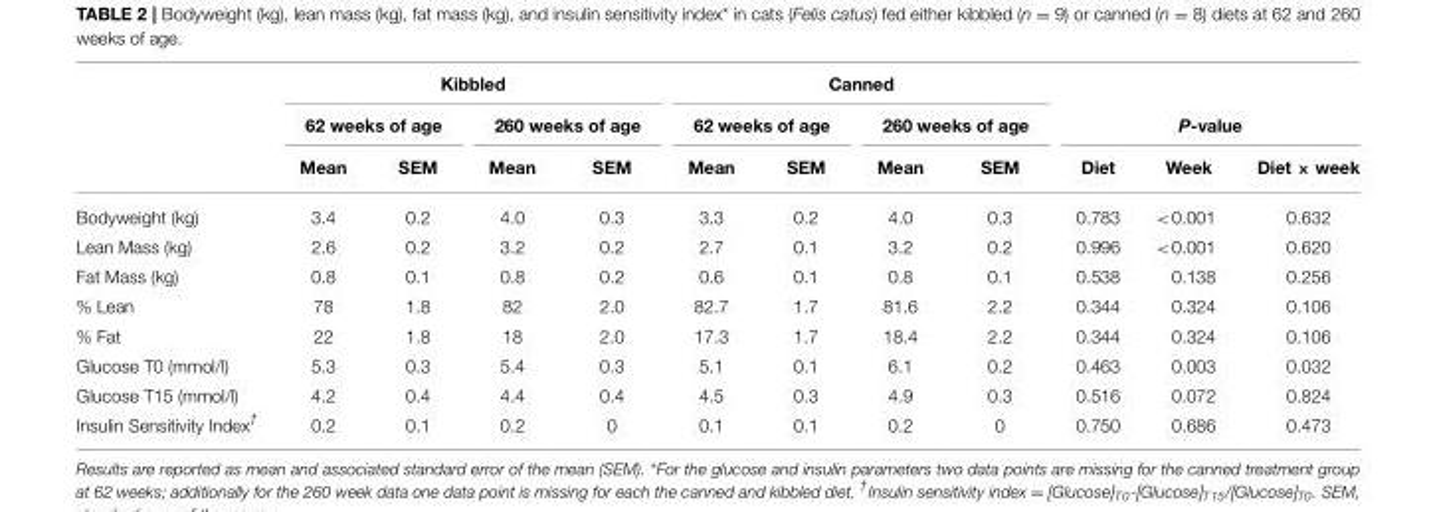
<table><thead><tr><td rowspan="3"></td><td colspan="4">Kibbled</td><td colspan="4">Canned</td><td></td><td></td><td></td></tr><tr><td colspan="2">62 weeks of age</td><td colspan="2">260 weeks of age</td><td colspan="2">62 weeks of age</td><td colspan="2">260 weeks of age</td><td colspan="3">P-value</td></tr><tr><td>Mean</td><td>SEM</td><td>Mean</td><td>SEM</td><td>Mean</td><td>SEM</td><td>Mean</td><td>SEM</td><td>Diet</td><td>Week</td><td>Diet × week</td></tr></thead><tbody><tr><td>Bodyweight (kg)</td><td>3.4</td><td>0.2</td><td>4.0</td><td>0.3</td><td>3.3</td><td>0.2</td><td>4.0</td><td>0.3</td><td>0.783</td><td>&lt;0.001</td><td>0.632</td></tr><tr><td>Lean Mass (kg)</td><td>2.6</td><td>0.2</td><td>3.2</td><td>0.2</td><td>2.7</td><td>0.1</td><td>3.2</td><td>0.2</td><td>0.996</td><td>&lt;0.001</td><td>0.620</td></tr><tr><td>Fat Mass (kg)</td><td>0.8</td><td>0.1</td><td>0.8</td><td>0.2</td><td>0.6</td><td>0.1</td><td>0.8</td><td>0.1</td><td>0.538</td><td>0.138</td><td>0.256</td></tr><tr><td>% Lean</td><td>78</td><td>1.8</td><td>82</td><td>2.0</td><td>82.7</td><td>1.7</td><td>81.6</td><td>2.2</td><td>0.344</td><td>0.324</td><td>0.106</td></tr><tr><td>% Fat</td><td>22</td><td>1.8</td><td>18</td><td>2.0</td><td>17.3</td><td>1.7</td><td>18.4</td><td>2.2</td><td>0.344</td><td>0.324</td><td>0.106</td></tr><tr><td>Glucose T0 (mmol/l)</td><td>5.3</td><td>0.3</td><td>5.4</td><td>0.3</td><td>5.1</td><td>0.1</td><td>6.1</td><td>0.2</td><td>0.463</td><td>0.003</td><td>0.032</td></tr><tr><td>Glucose T15 (mmol/l)</td><td>4.2</td><td>0.4</td><td>4.4</td><td>0.4</td><td>4.5</td><td>0.3</td><td>4.9</td><td>0.3</td><td>0.516</td><td>0.072</td><td>0.824</td></tr><tr><td>Insulin Sensitivity Index†</td><td>0.2</td><td>0.1</td><td>0.2</td><td>0</td><td>0.1</td><td>0.1</td><td>0.2</td><td>0</td><td>0.750</td><td>0.686</td><td>0.473</td></tr></tbody></table>